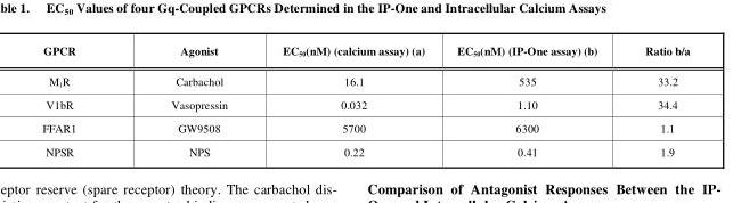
<table><thead><tr><td>GPCR</td><td>Agonist</td><td>EC<sub>50</sub>(nM) (calcium assay) (a)</td><td>EC<sub>50</sub>(nM) (IP-One assay) (b)</td><td>Ratio b/a</td></tr></thead><tbody><tr><td>M<sub>1</sub>R</td><td>Carbachol</td><td>16.1</td><td>535</td><td>33.2</td></tr><tr><td>V1bR</td><td>Vasopressin</td><td>0.032</td><td>1.10</td><td>34.4</td></tr><tr><td>FFAR1</td><td>GW9508</td><td>5700</td><td>6300</td><td>1.1</td></tr><tr><td>NPSR</td><td>NPS</td><td>0.22</td><td>0.41</td><td>1.9</td></tr></tbody></table>